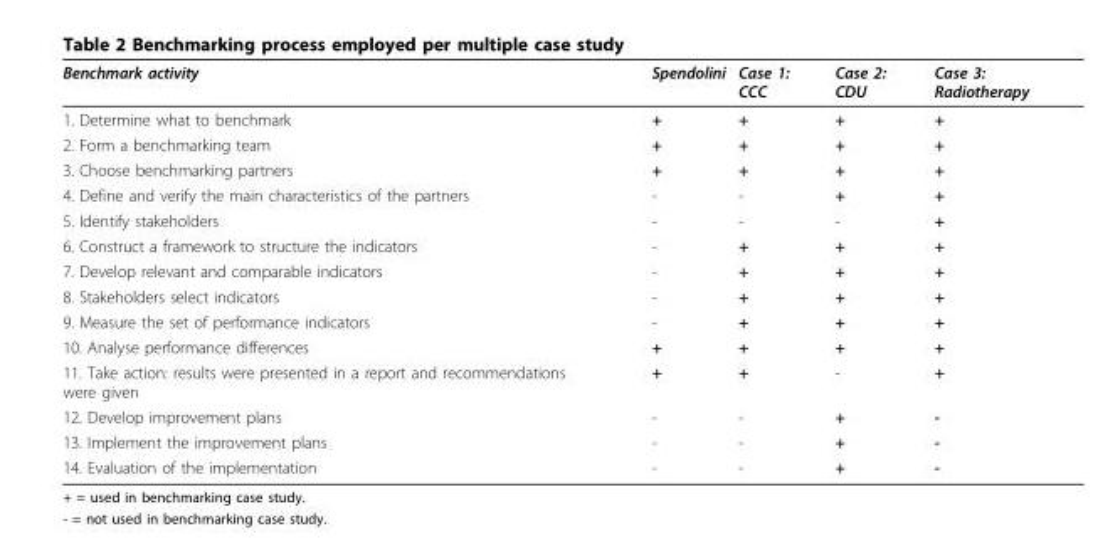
<table><thead><tr><td>Benchmark activity</td><td>Spendolini</td><td>Case 1: CCC</td><td>Case 2: CDU</td><td>Case 3: Radiotherapy</td></tr></thead><tbody><tr><td>1. Determine what to benchmark</td><td>+</td><td>+</td><td>+</td><td>+</td></tr><tr><td>2. Form a benchmarking team</td><td>+</td><td>+</td><td>+</td><td>+</td></tr><tr><td>3. Choose benchmarking partners</td><td>+</td><td>+</td><td>+</td><td>+</td></tr><tr><td>4. Define and verify the main characteristics of the partners</td><td>-</td><td>-</td><td>+</td><td>+</td></tr><tr><td>5. Identify stakeholders</td><td>-</td><td>-</td><td>-</td><td>+</td></tr><tr><td>6. Construct a framework to structure the indicators</td><td>-</td><td>+</td><td>+</td><td>+</td></tr><tr><td>7. Develop relevant and comparable indicators</td><td>-</td><td>+</td><td>+</td><td>+</td></tr><tr><td>8. Stakeholders select indicators</td><td>-</td><td>+</td><td>+</td><td>+</td></tr><tr><td>9. Measure the set of performance indicators</td><td>-</td><td>+</td><td>+</td><td>+</td></tr><tr><td>10. Analyse performance differences</td><td>+</td><td>+</td><td>+</td><td>+</td></tr><tr><td>11. Take action: results were presented in a report and recommendations were given</td><td>+</td><td>+</td><td>-</td><td>+</td></tr><tr><td>12. Develop improvement plans</td><td>-</td><td>-</td><td>+</td><td>-</td></tr><tr><td>13. Implement the improvement plans</td><td>-</td><td>-</td><td>+</td><td>-</td></tr><tr><td>14. Evaluation of the implementation</td><td>-</td><td>-</td><td>+</td><td>-</td></tr></tbody></table>